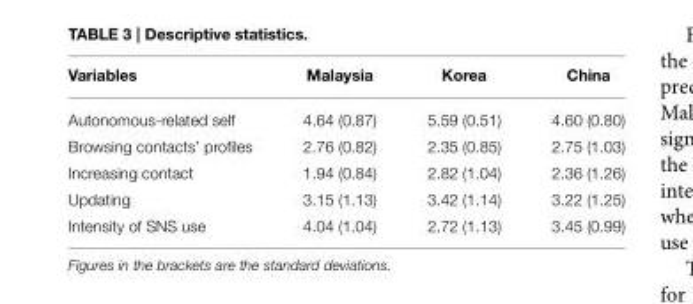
<table><thead><tr><td>Variables</td><td>Malaysia</td><td>Korea</td><td>China</td></tr></thead><tbody><tr><td>Autonomous-related self</td><td>4.64 (0.87)</td><td>5.59 (0.51)</td><td>4.60 (0.80)</td></tr><tr><td>Browsing contacts’ profiles</td><td>2.76 (0.82)</td><td>2.35 (0.85)</td><td>2.75 (1.03)</td></tr><tr><td>Increasing contact</td><td>1.94 (0.84)</td><td>2.82 (1.04)</td><td>2.36 (1.26)</td></tr><tr><td>Updating</td><td>3.15 (1.13)</td><td>3.42 (1.14)</td><td>3.22 (1.25)</td></tr><tr><td>Intensity of SNS use</td><td>4.04 (1.04)</td><td>2.72 (1.13)</td><td>3.45 (0.99)</td></tr></tbody></table>